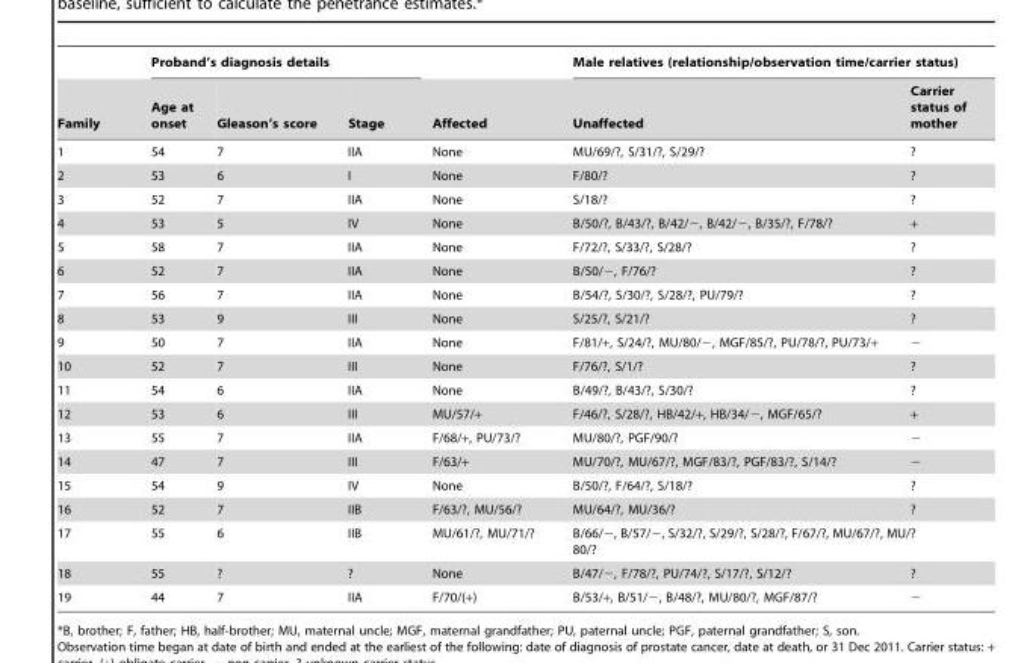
<table><thead><tr><td rowspan="2">Family</td><td colspan="3">Proband’s diagnosis details</td><td rowspan="2">Affected</td><td colspan="2">Male relatives (relationship/observation time/carrier status)</td></tr><tr><td>Age at onset</td><td>Gleason’s score</td><td>Stage</td><td>Unaffected</td><td>Carrier status of mother</td></tr></thead><tbody><tr><td>1</td><td>54</td><td>7</td><td>IIA</td><td>None</td><td>MU/69/?, S/31/?, S/29/?</td><td>?</td></tr><tr><td>2</td><td>53</td><td>6</td><td>I</td><td>None</td><td>F/80/?</td><td>?</td></tr><tr><td>3</td><td>52</td><td>7</td><td>IIA</td><td>None</td><td>S/18/?</td><td>?</td></tr><tr><td>4</td><td>53</td><td>5</td><td>IV</td><td>None</td><td>B/50/?, B/43/?, B/42/−, B/42/−, B/35/?, F/78/?</td><td>+</td></tr><tr><td>5</td><td>58</td><td>7</td><td>IIA</td><td>None</td><td>F/72/?, S/33/?, S/28/?</td><td>?</td></tr><tr><td>6</td><td>52</td><td>7</td><td>IIA</td><td>None</td><td>B/50/−, F/76/?</td><td>?</td></tr><tr><td>7</td><td>56</td><td>7</td><td>IIA</td><td>None</td><td>B/54/?, S/30/?, S/28/?, PU/79/?</td><td>?</td></tr><tr><td>8</td><td>53</td><td>9</td><td>III</td><td>None</td><td>S/25/?, S/21/?</td><td>?</td></tr><tr><td>9</td><td>50</td><td>7</td><td>IIA</td><td>None</td><td>F/81/+, S/24/?, MU/80/−, MGF/85/?, PU/78/?, PU/73/+</td><td>−</td></tr><tr><td>10</td><td>52</td><td>7</td><td>III</td><td>None</td><td>F/76/?, S/1/?</td><td>?</td></tr><tr><td>11</td><td>54</td><td>6</td><td>IIA</td><td>None</td><td>B/49/?, B/43/?, S/30/?</td><td>?</td></tr><tr><td>12</td><td>53</td><td>6</td><td>III</td><td>MU/57/+</td><td>F/46/?, S/28/?, HB/42/+, HB/34/−, MGF/65/?</td><td>+</td></tr><tr><td>13</td><td>55</td><td>7</td><td>IIA</td><td>F/68/+, PU/73/?</td><td>MU/80/?, PGF/90/?</td><td>−</td></tr><tr><td>14</td><td>47</td><td>7</td><td>III</td><td>F/63/+</td><td>MU/70/?, MU/67/?, MGF/83/?, PGF/83/?, S/14/?</td><td>−</td></tr><tr><td>15</td><td>54</td><td>9</td><td>IV</td><td>None</td><td>B/50/?, F/64/?, S/18/?</td><td>?</td></tr><tr><td>16</td><td>52</td><td>7</td><td>IIB</td><td>F/63/?, MU/56/?</td><td>MU/64/?, MU/36/?</td><td>?</td></tr><tr><td>17</td><td>55</td><td>6</td><td>IIB</td><td>MU/61/?, MU/71/?</td><td>B/66/−, B/57/−, S/32/?, S/29/?, S/28/?, F/67/?, MU/67/?, MU/ 80/?</td><td>?</td></tr><tr><td>18</td><td>55</td><td>?</td><td>?</td><td>None</td><td>B/47/−, F/78/?, PU/74/?, S/17/?, S/12/?</td><td>?</td></tr><tr><td>19</td><td>44</td><td>7</td><td>IIA</td><td>F/70/(+)</td><td>B/53/+, B/51/−, B/48/?, MU/80/?, MGF/87/?</td><td>−</td></tr></tbody></table>